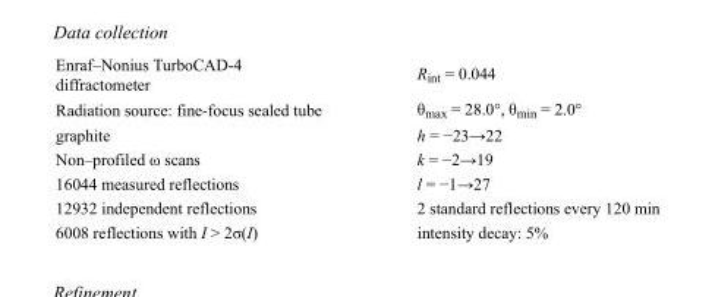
<table><tbody><tr><td>Enraf–Nonius TurboCAD-4 diffractometer</td><td>R<sub>int</sub> = 0.044</td></tr><tr><td>Radiation source: fine-focus sealed tube</td><td>θ<sub>max</sub> = 28.0°, θ<sub>min</sub> = 2.0°</td></tr><tr><td>graphite</td><td>h = −23→22</td></tr><tr><td>Non–profiled ω scans</td><td>k = −2→19</td></tr><tr><td>16044 measured reflections</td><td>l = −1→27</td></tr><tr><td>12932 independent reflections</td><td>2 standard reflections every 120 min</td></tr><tr><td>6008 reflections with I &gt; 2σ(I)</td><td>intensity decay: 5%</td></tr></tbody></table>